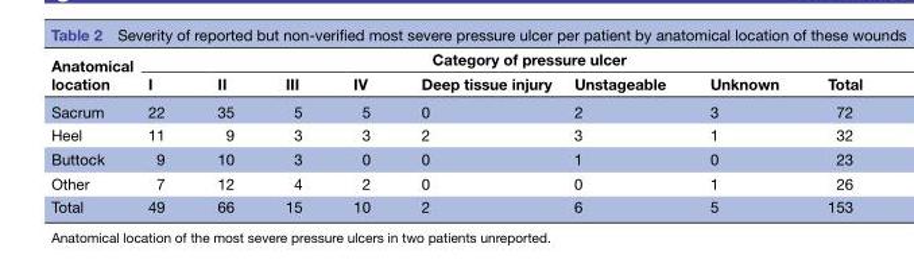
<table><thead><tr><td rowspan="2">Anatomical location</td><td colspan="8">Category of pressure ulcer</td></tr><tr><td>I</td><td>II</td><td>III</td><td>IV</td><td>Deep tissue injury</td><td>Unstageable</td><td>Unknown</td><td>Total</td></tr></thead><tbody><tr><td>Sacrum</td><td>22</td><td>35</td><td>5</td><td>5</td><td>0</td><td>2</td><td>3</td><td>72</td></tr><tr><td>Heel</td><td>11</td><td>9</td><td>3</td><td>3</td><td>2</td><td>3</td><td>1</td><td>32</td></tr><tr><td>Buttock</td><td>9</td><td>10</td><td>3</td><td>0</td><td>0</td><td>1</td><td>0</td><td>23</td></tr><tr><td>Other</td><td>7</td><td>12</td><td>4</td><td>2</td><td>0</td><td>0</td><td>1</td><td>26</td></tr><tr><td>Total</td><td>49</td><td>66</td><td>15</td><td>10</td><td>2</td><td>6</td><td>5</td><td>153</td></tr></tbody></table>